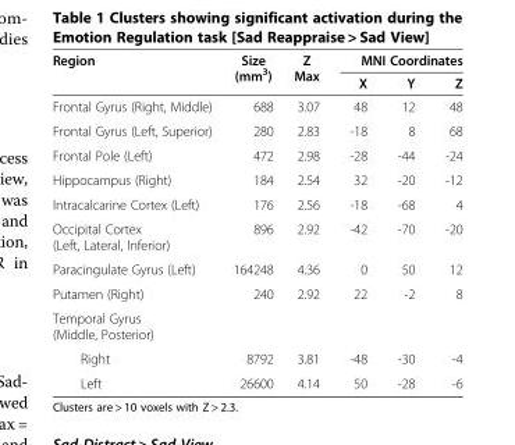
<table><thead><tr><td rowspan="2">Region</td><td rowspan="2">Size (mm<sup>3</sup>)</td><td rowspan="2">Z Max</td><td colspan="3">MNI Coordinates</td></tr><tr><td>X</td><td>Y</td><td>Z</td></tr></thead><tbody><tr><td>Frontal Gyrus (Right, Middle)</td><td>688</td><td>3.07</td><td>48</td><td>12</td><td>48</td></tr><tr><td>Frontal Gyrus (Left, Superior)</td><td>280</td><td>2.83</td><td>-18</td><td>8</td><td>68</td></tr><tr><td>Frontal Pole (Left)</td><td>472</td><td>2.98</td><td>-28</td><td>-44</td><td>-24</td></tr><tr><td>Hippocampus (Right)</td><td>184</td><td>2.54</td><td>32</td><td>-20</td><td>-12</td></tr><tr><td>Intracalcarine Cortex (Left)</td><td>176</td><td>2.56</td><td>-18</td><td>-68</td><td>4</td></tr><tr><td>Occipital Cortex (Left, Lateral, Inferior)</td><td>896</td><td>2.92</td><td>-42</td><td>-70</td><td>-20</td></tr><tr><td>Paracingulate Gyrus (Left)</td><td>164248</td><td>4.36</td><td>0</td><td>50</td><td>12</td></tr><tr><td>Putamen (Right)</td><td>240</td><td>2.92</td><td>22</td><td>-2</td><td>8</td></tr><tr><td colspan="6">Temporal Gyrus (Middle, Posterior)</td></tr><tr><td>Right</td><td>8792</td><td>3.81</td><td>-48</td><td>-30</td><td>-4</td></tr><tr><td>Left</td><td>26600</td><td>4.14</td><td>50</td><td>-28</td><td>-6</td></tr></tbody></table>